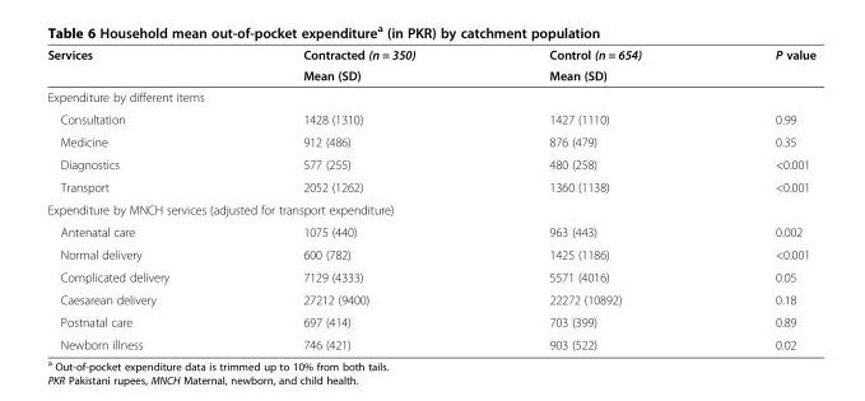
<table><thead><tr><td rowspan="2">Services</td><td rowspan="2">Contracted (n = 350) Mean (SD)</td><td rowspan="2">Control (n = 654) Mean (SD)</td><td rowspan="2">P value</td></tr><tr></tr></thead><tbody><tr><td colspan="4">Expenditure by different items</td></tr><tr><td>Consultation</td><td>1428 (1310)</td><td>1427 (1110)</td><td>0.99</td></tr><tr><td>Medicine</td><td>912 (486)</td><td>876 (479)</td><td>0.35</td></tr><tr><td>Diagnostics</td><td>577 (255)</td><td>480 (258)</td><td>&lt;0.001</td></tr><tr><td>Transport</td><td>2052 (1262)</td><td>1360 (1138)</td><td>&lt;0.001</td></tr><tr><td colspan="4">Expenditure by MNCH services (adjusted for transport expenditure)</td></tr><tr><td>Antenatal care</td><td>1075 (440)</td><td>963 (443)</td><td>0.002</td></tr><tr><td>Normal delivery</td><td>600 (782)</td><td>1425 (1186)</td><td>&lt;0.001</td></tr><tr><td>Complicated delivery</td><td>7129 (4333)</td><td>5571 (4016)</td><td>0.05</td></tr><tr><td>Caesarean delivery</td><td>27212 (9400)</td><td>22272 (10892)</td><td>0.18</td></tr><tr><td>Postnatal care</td><td>697 (414)</td><td>703 (399)</td><td>0.89</td></tr><tr><td>Newborn illness</td><td>746 (421)</td><td>903 (522)</td><td>0.02</td></tr></tbody></table>